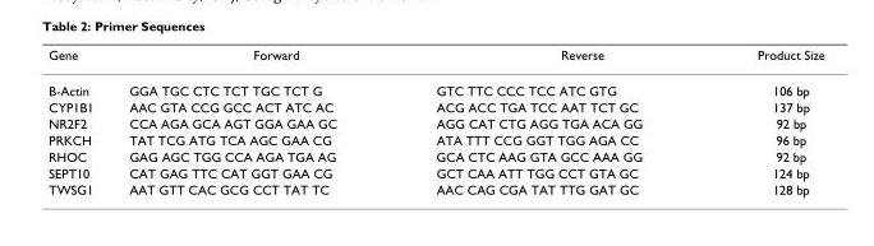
<table><thead><tr><td>Gene</td><td>Forward</td><td>Reverse</td><td>Product Size</td></tr></thead><tbody><tr><td>B-Actin</td><td>GGA TGC CTC TCT TGC TCT G</td><td>GTC TTC CCC TCC ATC GTG</td><td>106 bp</td></tr><tr><td>CYP1B1</td><td>AAC GTA CCG GCC ACT ATC AC</td><td>ACG ACC TGA TCC AAT TCT GC</td><td>137 bp</td></tr><tr><td>NR2F2</td><td>CCA AGA GCA AGT GGA GAA GC</td><td>AGG CAT CTG AGG TGA ACA GG</td><td>92 bp</td></tr><tr><td>PRKCH</td><td>TAT TCG ATG TCA AGC GAA CG</td><td>ATA TTT CCG GGT TGG AGA CC</td><td>96 bp</td></tr><tr><td>RHOC</td><td>GAG AGC TGG CCA AGA TGA AG</td><td>GCA CTC AAG GTA GCC AAA GG</td><td>92 bp</td></tr><tr><td>SEPT10</td><td>CAT GAG TTC CAT GGT GAA CG</td><td>GCT CAA ATT TGG CCT GTA GC</td><td>124 bp</td></tr><tr><td>TWSG1</td><td>AAT GTT CAC GCG CCT TAT TC</td><td>AAC CAG CGA TAT TTG GAT GC</td><td>128 bp</td></tr></tbody></table>